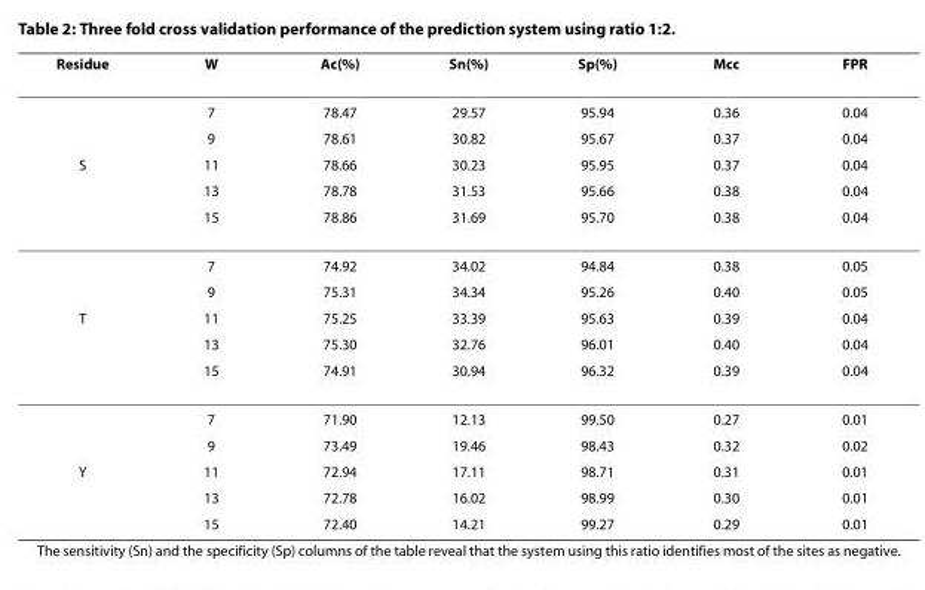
<table><thead><tr><td>Residue</td><td>W</td><td>Ac(%)</td><td>Sn(%)</td><td>Sp(%)</td><td>Mcc</td><td>FPR</td></tr></thead><tbody><tr><td></td><td>7</td><td>78.47</td><td>29.57</td><td>95.94</td><td>0.36</td><td>0.04</td></tr><tr><td></td><td>9</td><td>78.61</td><td>30.82</td><td>95.67</td><td>0.37</td><td>0.04</td></tr><tr><td rowspan="5">S</td><td>11</td><td>78.66</td><td>30.23</td><td>95.95</td><td>0.37</td><td>0.04</td></tr><tr><td>13</td><td>78.78</td><td>31.53</td><td>95.66</td><td>0.38</td><td>0.04</td></tr><tr><td>15</td><td>78.86</td><td>31.69</td><td>95.70</td><td>0.38</td><td>0.04</td></tr><tr><td>7</td><td>74.92</td><td>34.02</td><td>94.84</td><td>0.38</td><td>0.05</td></tr><tr><td>9</td><td>75.31</td><td>34.34</td><td>95.26</td><td>0.40</td><td>0.05</td></tr><tr><td rowspan="5">T</td><td>11</td><td>75.25</td><td>33.39</td><td>95.63</td><td>0.39</td><td>0.04</td></tr><tr><td>13</td><td>75.30</td><td>32.76</td><td>96.01</td><td>0.40</td><td>0.04</td></tr><tr><td>15</td><td>74.91</td><td>30.94</td><td>96.32</td><td>0.39</td><td>0.04</td></tr><tr><td>7</td><td>71.90</td><td>12.13</td><td>99.50</td><td>0.27</td><td>0.01</td></tr><tr><td>9</td><td>73.49</td><td>19.46</td><td>98.43</td><td>0.32</td><td>0.02</td></tr><tr><td rowspan="3">Y</td><td>11</td><td>72.94</td><td>17.11</td><td>98.71</td><td>0.31</td><td>0.01</td></tr><tr><td>13</td><td>72.78</td><td>16.02</td><td>98.99</td><td>0.30</td><td>0.01</td></tr><tr><td>15</td><td>72.40</td><td>14.21</td><td>99.27</td><td>0.29</td><td>0.01</td></tr></tbody></table>